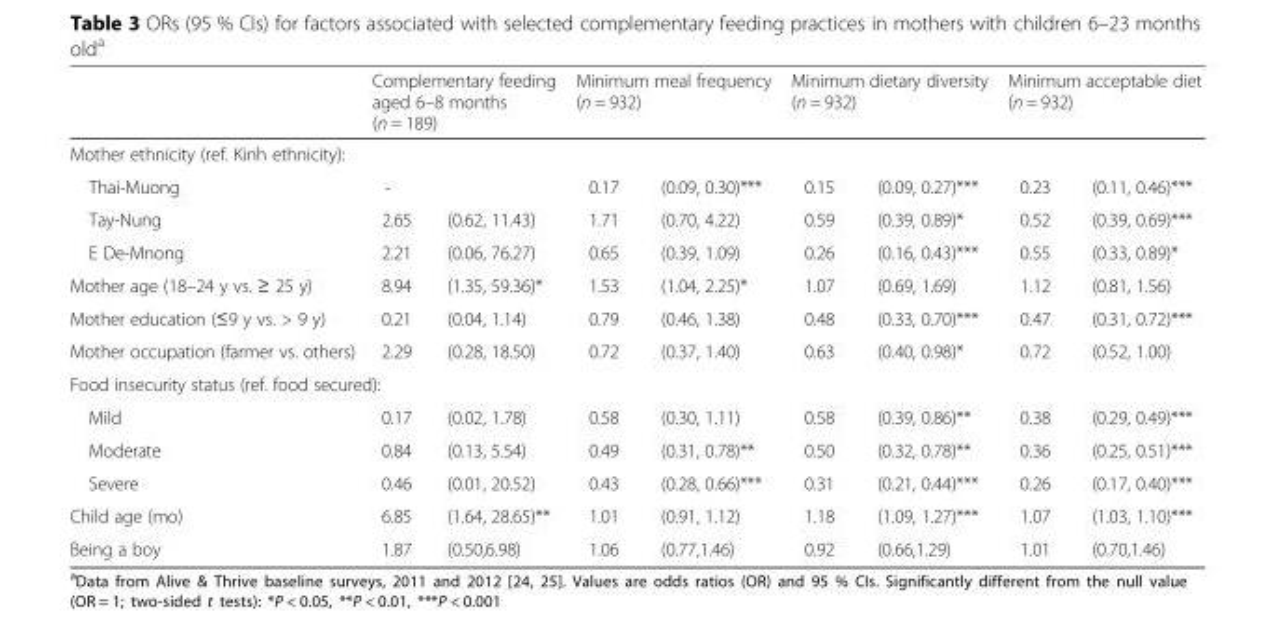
<table><thead><tr><td></td><td colspan="2">Complementary feeding aged 6–8 months (n = 189)</td><td colspan="2">Minimum meal frequency (n = 932)</td><td colspan="2">Minimum dietary diversity (n = 932)</td><td colspan="2">Minimum acceptable diet (n = 932)</td></tr><tr><td colspan="9">Mother ethnicity (ref. Kinh ethnicity):</td></tr><tr><td>Thai-Muong</td><td>-</td><td></td><td>0.17</td><td>(0.09, 0.30)***</td><td>0.15</td><td>(0.09, 0.27)***</td><td>0.23</td><td>(0.11, 0.46)***</td></tr></thead><tbody><tr><td>Tay-Nung</td><td>2.65</td><td>(0.62, 11.43)</td><td>1.71</td><td>(0.70, 4.22)</td><td>0.59</td><td>(0.39, 0.89)*</td><td>0.52</td><td>(0.39, 0.69)***</td></tr><tr><td>E De-Mnong</td><td>2.21</td><td>(0.06, 76.27)</td><td>0.65</td><td>(0.39, 1.09)</td><td>0.26</td><td>(0.16, 0.43)***</td><td>0.55</td><td>(0.33, 0.89)*</td></tr><tr><td>Mother age (18–24 y vs. ≥ 25 y)</td><td>8.94</td><td>(1.35, 59.36)*</td><td>1.53</td><td>(1.04, 2.25)*</td><td>1.07</td><td>(0.69, 1.69)</td><td>1.12</td><td>(0.81, 1.56)</td></tr><tr><td>Mother education (≤9 y vs. &gt; 9 y)</td><td>0.21</td><td>(0.04, 1.14)</td><td>0.79</td><td>(0.46, 1.38)</td><td>0.48</td><td>(0.33, 0.70)***</td><td>0.47</td><td>(0.31, 0.72)***</td></tr><tr><td>Mother occupation (farmer vs. others)</td><td>2.29</td><td>(0.28, 18.50)</td><td>0.72</td><td>(0.37, 1.40)</td><td>0.63</td><td>(0.40, 0.98)*</td><td>0.72</td><td>(0.52, 1.00)</td></tr><tr><td colspan="9">Food insecurity status (ref. food secured):</td></tr><tr><td>Mild</td><td>0.17</td><td>(0.02, 1.78)</td><td>0.58</td><td>(0.30, 1.11)</td><td>0.58</td><td>(0.39, 0.86)**</td><td>0.38</td><td>(0.29, 0.49)***</td></tr><tr><td>Moderate</td><td>0.84</td><td>(0.13, 5.54)</td><td>0.49</td><td>(0.31, 0.78)**</td><td>0.50</td><td>(0.32, 0.78)**</td><td>0.36</td><td>(0.25, 0.51)***</td></tr><tr><td>Severe</td><td>0.46</td><td>(0.01, 20.52)</td><td>0.43</td><td>(0.28, 0.66)***</td><td>0.31</td><td>(0.21, 0.44)***</td><td>0.26</td><td>(0.17, 0.40)***</td></tr><tr><td>Child age (mo)</td><td>6.85</td><td>(1.64, 28.65)**</td><td>1.01</td><td>(0.91, 1.12)</td><td>1.18</td><td>(1.09, 1.27)***</td><td>1.07</td><td>(1.03, 1.10)***</td></tr><tr><td>Being a boy</td><td>1.87</td><td>(0.50,6.98)</td><td>1.06</td><td>(0.77,1.46)</td><td>0.92</td><td>(0.66,1.29)</td><td>1.01</td><td>(0.70,1.46)</td></tr></tbody></table>